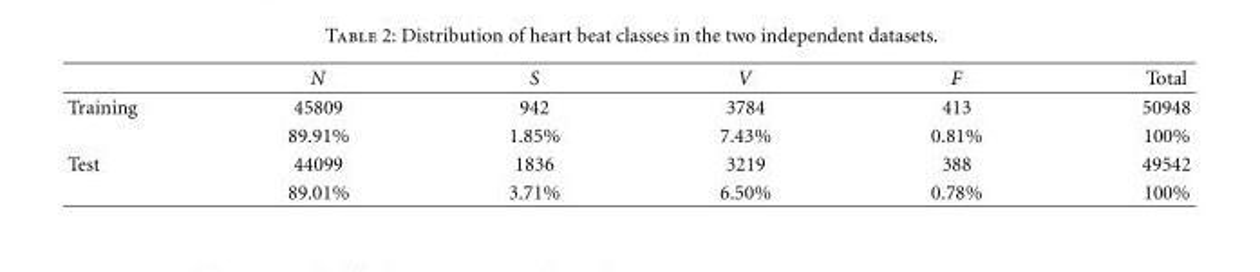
<table><thead><tr><td></td><td>N</td><td>S</td><td>V</td><td>F</td><td>Total</td></tr></thead><tbody><tr><td rowspan="2">Training</td><td>45809</td><td>942</td><td>3784</td><td>413</td><td>50948</td></tr><tr><td>89.91%</td><td>1.85%</td><td>7.43%</td><td>0.81%</td><td>100%</td></tr><tr><td rowspan="2">Test</td><td>44099</td><td>1836</td><td>3219</td><td>388</td><td>49542</td></tr><tr><td>89.01%</td><td>3.71%</td><td>6.50%</td><td>0.78%</td><td>100%</td></tr></tbody></table>